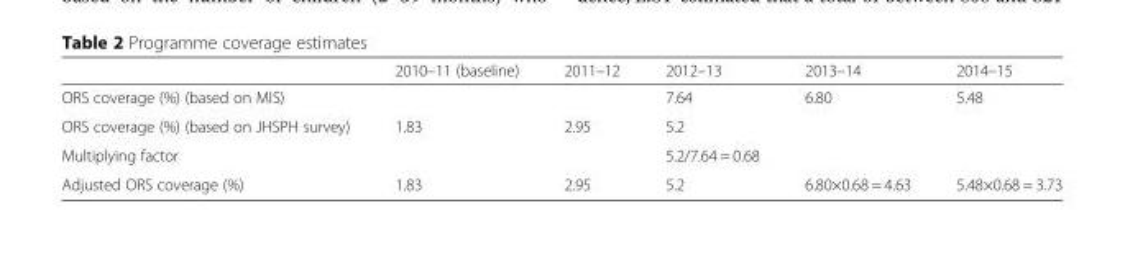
<table><thead><tr><td></td><td>2010–11 (baseline)</td><td>2011–12</td><td>2012–13</td><td>2013–14</td><td>2014–15</td></tr></thead><tbody><tr><td>ORS coverage (%) (based on MIS)</td><td></td><td></td><td>7.64</td><td>6.80</td><td>5.48</td></tr><tr><td>ORS coverage (%) (based on JHSPH survey)</td><td>1.83</td><td>2.95</td><td>5.2</td><td></td><td></td></tr><tr><td>Multiplying factor</td><td></td><td></td><td>5.2/7.64 = 0.68</td><td></td><td></td></tr><tr><td>Adjusted ORS coverage (%)</td><td>1.83</td><td>2.95</td><td>5.2</td><td>6.80×0.68 = 4.63</td><td>5.48×0.68 = 3.73</td></tr></tbody></table>